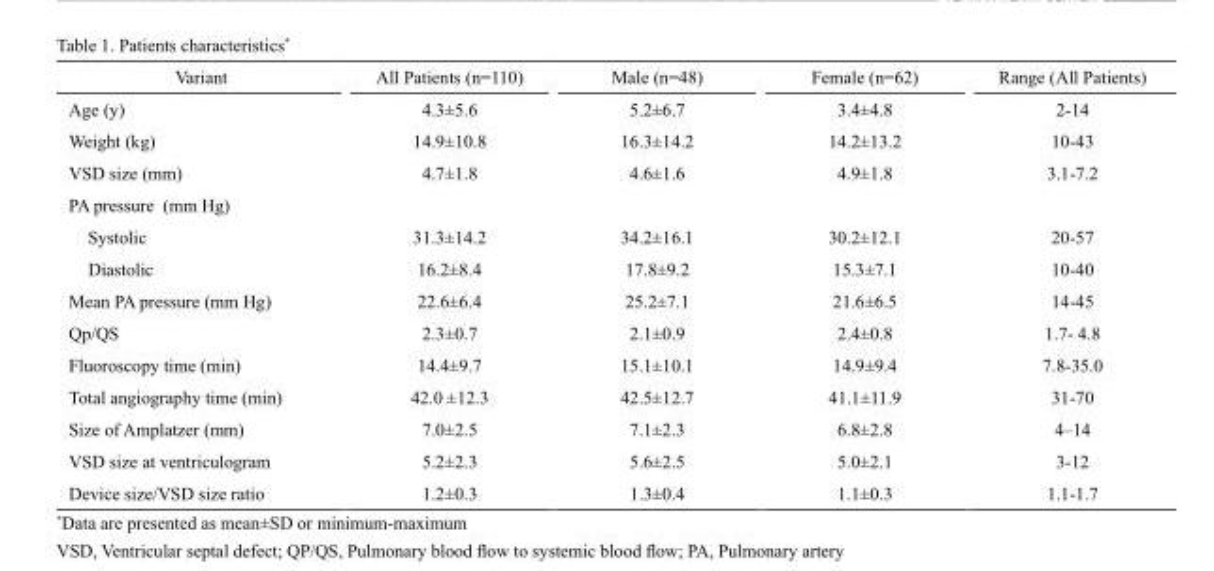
<table><thead><tr><td>Variant</td><td>All Patients (n=110)</td><td>Male (n=48)</td><td>Female (n=62)</td><td>Range (All Patients)</td></tr></thead><tbody><tr><td>Age (y)</td><td>4.3±5.6</td><td>5.2±6.7</td><td>3.4±4.8</td><td>2-14</td></tr><tr><td>Weight (kg)</td><td>14.9±10.8</td><td>16.3±14.2</td><td>14.2±13.2</td><td>10-43</td></tr><tr><td>VSD size (mm)</td><td>4.7±1.8</td><td>4.6±1.6</td><td>4.9±1.8</td><td>3.1-7.2</td></tr><tr><td colspan="5">PA pressure (mm Hg)</td></tr><tr><td>Systolic</td><td>31.3±14.2</td><td>34.2±16.1</td><td>30.2±12.1</td><td>20-57</td></tr><tr><td>Diastolic</td><td>16.2±8.4</td><td>17.8±9.2</td><td>15.3±7.1</td><td>10-40</td></tr><tr><td>Mean PA pressure (mm Hg)</td><td>22.6±6.4</td><td>25.2±7.1</td><td>21.6±6.5</td><td>14-45</td></tr><tr><td>Qp/QS</td><td>2.3±0.7</td><td>2.1±0.9</td><td>2.4±0.8</td><td>1.7- 4.8</td></tr><tr><td>Fluoroscopy time (min)</td><td>14.4±9.7</td><td>15.1±10.1</td><td>14.9±9.4</td><td>7.8-35.0</td></tr><tr><td>Total angiography time (min)</td><td>42.0 ±12.3</td><td>42.5±12.7</td><td>41.1±11.9</td><td>31-70</td></tr><tr><td>Size of Amplatzer (mm)</td><td>7.0±2.5</td><td>7.1±2.3</td><td>6.8±2.8</td><td>4–14</td></tr><tr><td>VSD size at ventriculogram</td><td>5.2±2.3</td><td>5.6±2.5</td><td>5.0±2.1</td><td>3-12</td></tr><tr><td>Device size/VSD size ratio</td><td>1.2±0.3</td><td>1.3±0.4</td><td>1.1±0.3</td><td>1.1-1.7</td></tr></tbody></table>